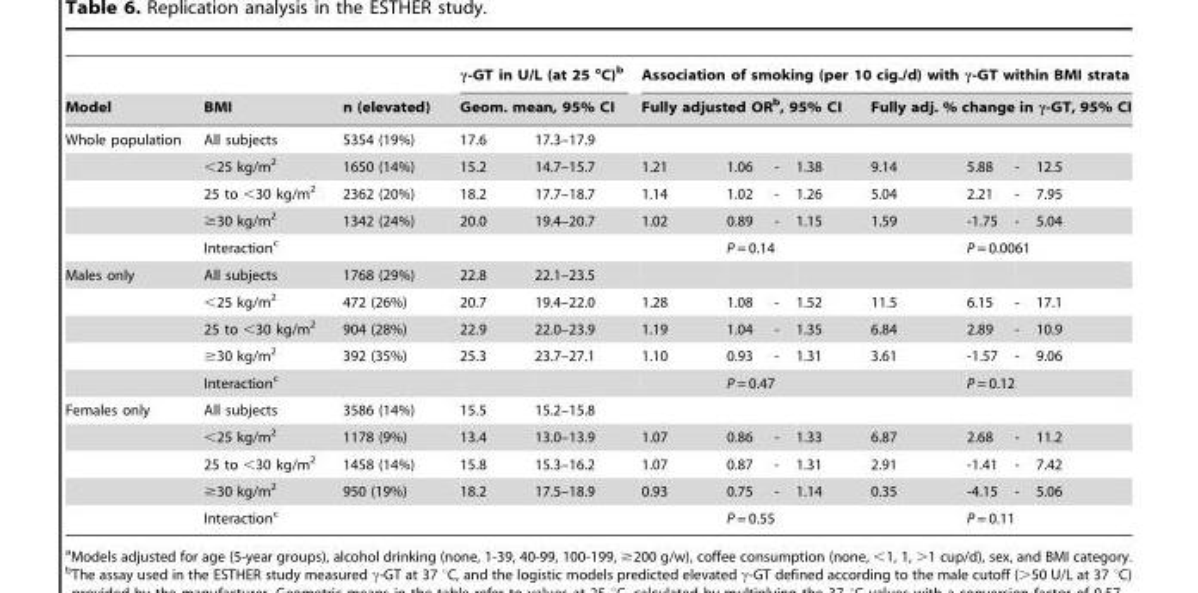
<table><thead><tr><td rowspan="3">Model Whole population</td><td rowspan="3">BMI All subjects</td><td rowspan="3">n (elevated) 5354 (19%)</td><td rowspan="2" colspan="2">γ-GT in U/L (at 25 °C)<sup>b</sup> Geom. mean, 95% CI</td><td colspan="8">Association of smoking (per 10 cig./d) with γ-GT within BMI strata</td></tr><tr><td colspan="4">Fully adjusted OR<sup>b</sup>, 95% CI</td><td colspan="4">Fully adj. % change in γ-GT, 95% CI</td></tr><tr><td>17.6</td><td>17.3–17.9</td><td></td><td></td><td></td><td></td><td></td><td></td><td></td><td></td></tr></thead><tbody><tr><td></td><td>&lt;25 kg/m<sup>2</sup></td><td>1650 (14%)</td><td>15.2</td><td>14.7–15.7</td><td>1.21</td><td>1.06</td><td>-</td><td>1.38</td><td>9.14</td><td>5.88</td><td>-</td><td>12.5</td></tr><tr><td></td><td>25 to &lt;30 kg/m<sup>2</sup></td><td>2362 (20%)</td><td>18.2</td><td>17.7–18.7</td><td>1.14</td><td>1.02</td><td>-</td><td>1.26</td><td>5.04</td><td>2.21</td><td>-</td><td>7.95</td></tr><tr><td></td><td>≥30 kg/m<sup>2</sup></td><td>1342 (24%)</td><td>20.0</td><td>19.4–20.7</td><td>1.02</td><td>0.89</td><td>-</td><td>1.15</td><td>1.59</td><td>-1.75</td><td>-</td><td>5.04</td></tr><tr><td></td><td>Interaction<sup>c</sup></td><td></td><td></td><td></td><td></td><td colspan="3">P = 0.14</td><td></td><td colspan="3">P = 0.0061</td></tr><tr><td rowspan="5">Males only</td><td>All subjects</td><td>1768 (29%)</td><td>22.8</td><td>22.1–23.5</td><td></td><td></td><td></td><td></td><td></td><td></td><td></td><td></td></tr><tr><td>&lt;25 kg/m<sup>2</sup></td><td>472 (26%)</td><td>20.7</td><td>19.4–22.0</td><td>1.28</td><td>1.08</td><td>-</td><td>1.52</td><td>11.5</td><td>6.15</td><td>-</td><td>17.1</td></tr><tr><td>25 to &lt;30 kg/m<sup>2</sup></td><td>904 (28%)</td><td>22.9</td><td>22.0–23.9</td><td>1.19</td><td>1.04</td><td>-</td><td>1.35</td><td>6.84</td><td>2.89</td><td>-</td><td>10.9</td></tr><tr><td>≥30 kg/m<sup>2</sup></td><td>392 (35%)</td><td>25.3</td><td>23.7–27.1</td><td>1.10</td><td>0.93</td><td>-</td><td>1.31</td><td>3.61</td><td>-1.57</td><td>-</td><td>9.06</td></tr><tr><td>Interaction<sup>c</sup></td><td></td><td></td><td></td><td></td><td colspan="3">P = 0.47</td><td></td><td colspan="3">P = 0.12</td></tr><tr><td rowspan="5">Females only</td><td>All subjects</td><td>3586 (14%)</td><td>15.5</td><td>15.2–15.8</td><td></td><td></td><td></td><td></td><td></td><td></td><td></td><td></td></tr><tr><td>&lt;25 kg/m<sup>2</sup></td><td>1178 (9%)</td><td>13.4</td><td>13.0–13.9</td><td>1.07</td><td>0.86</td><td>-</td><td>1.33</td><td>6.87</td><td>2.68</td><td>-</td><td>11.2</td></tr><tr><td>25 to &lt;30 kg/m<sup>2</sup></td><td>1458 (14%)</td><td>15.8</td><td>15.3–16.2</td><td>1.07</td><td>0.87</td><td>-</td><td>1.31</td><td>2.91</td><td>-1.41</td><td>-</td><td>7.42</td></tr><tr><td>≥30 kg/m<sup>2</sup></td><td>950 (19%)</td><td>18.2</td><td>17.5–18.9</td><td>0.93</td><td>0.75</td><td>-</td><td>1.14</td><td>0.35</td><td>-4.15</td><td>-</td><td>5.06</td></tr><tr><td>Interaction<sup>c</sup></td><td></td><td></td><td></td><td></td><td colspan="3">P = 0.55</td><td></td><td colspan="3">P = 0.11</td></tr></tbody></table>